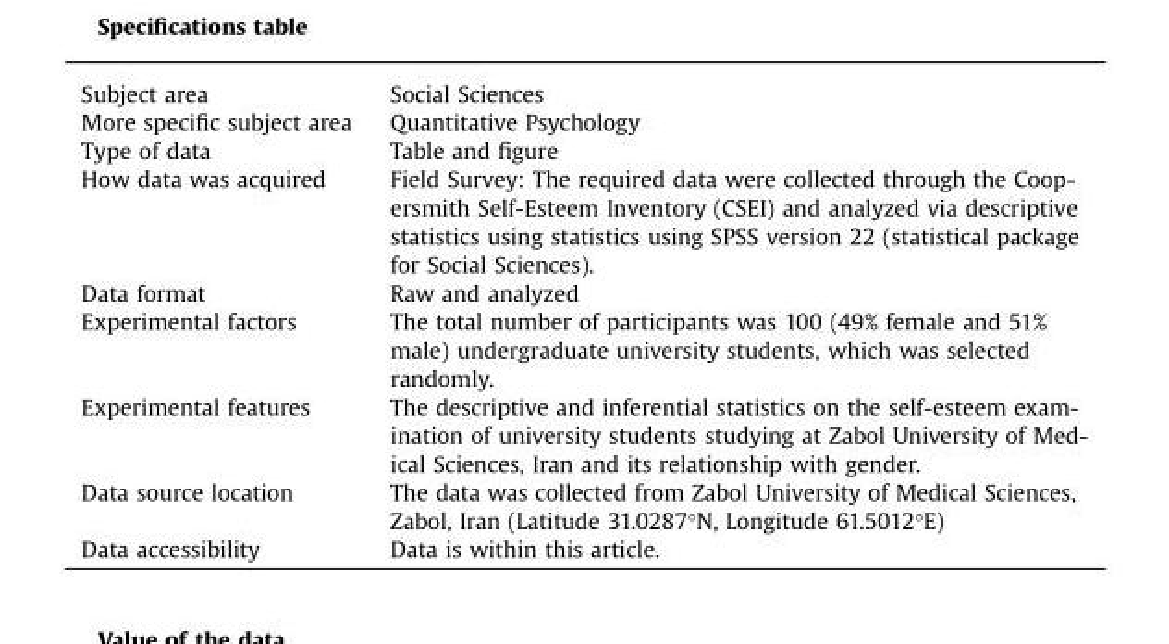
<table><thead><tr><td>Subject area</td><td>Social Sciences</td></tr></thead><tbody><tr><td>More specific subject area</td><td>Quantitative Psychology</td></tr><tr><td>Type of data</td><td>Table and figure</td></tr><tr><td>How data was acquired</td><td>Field Survey: The required data were collected through the Coop- ersmith Self-Esteem Inventory (CSEI) and analyzed via descriptive statistics using statistics using SPSS version 22 (statistical package for Social Sciences).</td></tr><tr><td>Data format</td><td>Raw and analyzed</td></tr><tr><td>Experimental factors</td><td>The total number of participants was 100 (49% female and 51% male) undergraduate university students, which was selected randomly.</td></tr><tr><td>Experimental features</td><td>The descriptive and inferential statistics on the self-esteem exam- ination of university students studying at Zabol University of Med- ical Sciences, Iran and its relationship with gender.</td></tr><tr><td>Data source location</td><td>The data was collected from Zabol University of Medical Sciences, Zabol, Iran (Latitude 31.0287°N, Longitude 61.5012°E)</td></tr><tr><td>Data accessibility</td><td>Data is within this article.</td></tr></tbody></table>